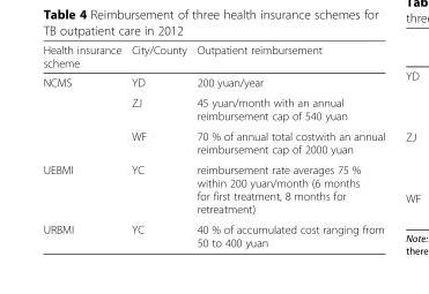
<table><thead><tr><td>Health insurance scheme</td><td>City/County</td><td>Outpatient reimbursement</td></tr></thead><tbody><tr><td rowspan="3">NCMS</td><td>YD</td><td>200 yuan/year</td></tr><tr><td>ZJ</td><td>45 yuan/month with an annual reimbursement cap of 540 yuan</td></tr><tr><td>WF</td><td>70 % of annual total costwith an annual reimbursement cap of 2000 yuan</td></tr><tr><td>UEBMI</td><td>YC</td><td>reimbursement rate averages 75 % within 200 yuan/month (6 months for first treatment, 8 months for retreatment)</td></tr><tr><td>URBMI</td><td>YC</td><td>40 % of accumulated cost ranging from 50 to 400 yuan</td></tr></tbody></table>